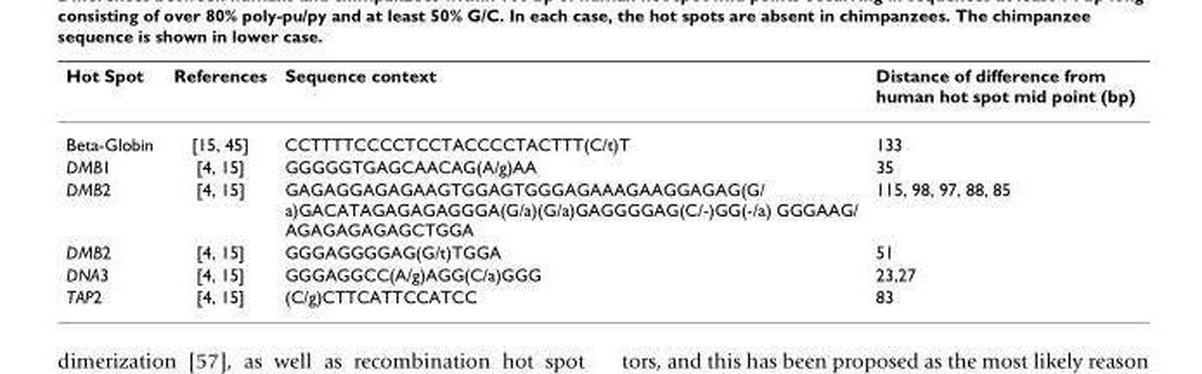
<table><thead><tr><td>Hot Spot</td><td>References</td><td>Sequence context</td><td>Distance of difference from human hot spot mid point (bp)</td></tr></thead><tbody><tr><td>Beta-Globin</td><td>[15, 45]</td><td>CCTTTTCCCCTCCTACCCCTACTTT(C/t)T</td><td>133</td></tr><tr><td>DMB1</td><td>[4, 15]</td><td>GGGGGTGAGCAACAG(A/g)AA</td><td>35</td></tr><tr><td>DMB2</td><td>[4, 15]</td><td>GAGAGGAGAGAAGTGGAGTGGGAGAAAGAAGGAGAG(G/ a)GACATAGAGAGAGGGA(G/a)(G/a)GAGGGGAG(C/-)GG(-/a) GGGAAG/ AGAGAGAGAGCTGGA</td><td>115, 98, 97, 88, 85</td></tr><tr><td>DMB2</td><td>[4, 15]</td><td>GGGAGGGGAG(G/t)TGGA</td><td>51</td></tr><tr><td>DNA3</td><td>[4, 15]</td><td>GGGAGGCC(A/g)AGG(C/a)GGG</td><td>23,27</td></tr><tr><td>TAP2</td><td>[4, 15]</td><td>(C/g)CTTCATTCCATCC</td><td>83</td></tr></tbody></table>